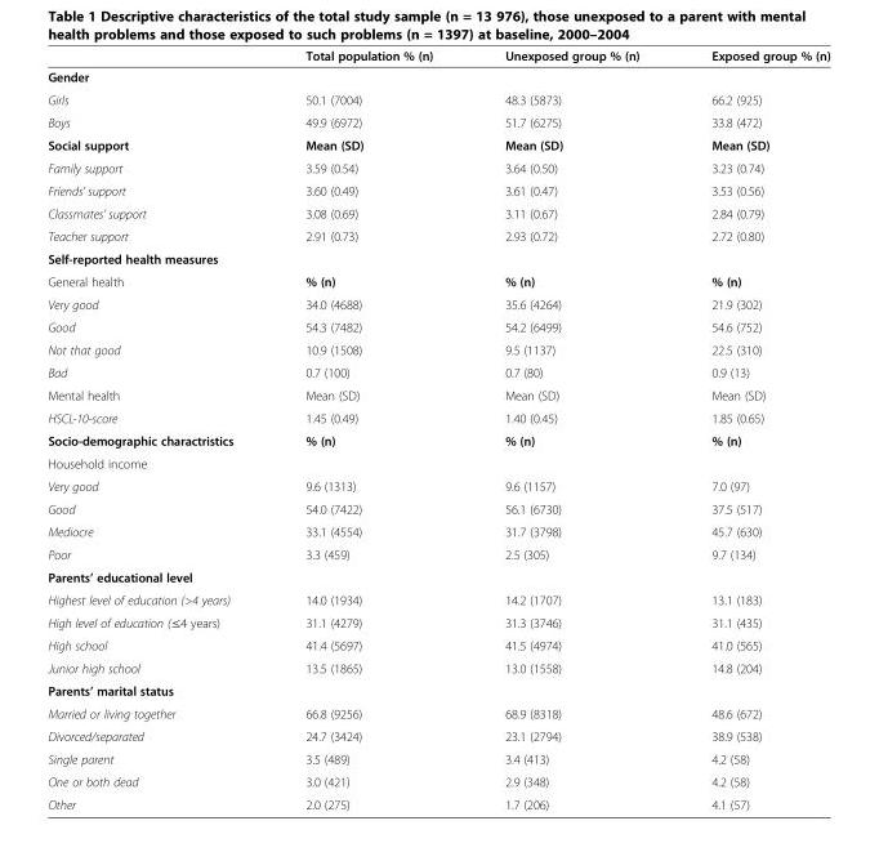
<table><thead><tr><td></td><td>Total population % (n)</td><td>Unexposed group % (n)</td><td>Exposed group % (n)</td></tr></thead><tbody><tr><td colspan="4">Gender</td></tr><tr><td>Girls</td><td>50.1 (7004)</td><td>48.3 (5873)</td><td>66.2 (925)</td></tr><tr><td>Boys</td><td>49.9 (6972)</td><td>51.7 (6275)</td><td>33.8 (472)</td></tr><tr><td>Social support</td><td>Mean (SD)</td><td>Mean (SD)</td><td>Mean (SD)</td></tr><tr><td>Family support</td><td>3.59 (0.54)</td><td>3.64 (0.50)</td><td>3.23 (0.74)</td></tr><tr><td>Friends’ support</td><td>3.60 (0.49)</td><td>3.61 (0.47)</td><td>3.53 (0.56)</td></tr><tr><td>Classmates’ support</td><td>3.08 (0.69)</td><td>3.11 (0.67)</td><td>2.84 (0.79)</td></tr><tr><td>Teacher support</td><td>2.91 (0.73)</td><td>2.93 (0.72)</td><td>2.72 (0.80)</td></tr><tr><td colspan="4">Self-reported health measures</td></tr><tr><td>General health</td><td>% (n)</td><td>% (n)</td><td>% (n)</td></tr><tr><td>Very good</td><td>34.0 (4688)</td><td>35.6 (4264)</td><td>21.9 (302)</td></tr><tr><td>Good</td><td>54.3 (7482)</td><td>54.2 (6499)</td><td>54.6 (752)</td></tr><tr><td>Not that good</td><td>10.9 (1508)</td><td>9.5 (1137)</td><td>22.5 (310)</td></tr><tr><td>Bad</td><td>0.7 (100)</td><td>0.7 (80)</td><td>0.9 (13)</td></tr><tr><td>Mental health</td><td>Mean (SD)</td><td>Mean (SD)</td><td>Mean (SD)</td></tr><tr><td>HSCL-10-score</td><td>1.45 (0.49)</td><td>1.40 (0.45)</td><td>1.85 (0.65)</td></tr><tr><td>Socio-demographic charactristics</td><td>% (n)</td><td>% (n)</td><td>% (n)</td></tr><tr><td colspan="4">Household income</td></tr><tr><td>Very good</td><td>9.6 (1313)</td><td>9.6 (1157)</td><td>7.0 (97)</td></tr><tr><td>Good</td><td>54.0 (7422)</td><td>56.1 (6730)</td><td>37.5 (517)</td></tr><tr><td>Mediocre</td><td>33.1 (4554)</td><td>31.7 (3798)</td><td>45.7 (630)</td></tr><tr><td>Poor</td><td>3.3 (459)</td><td>2.5 (305)</td><td>9.7 (134)</td></tr><tr><td colspan="4">Parents’ educational level</td></tr><tr><td>Highest level of education (&gt;4 years)</td><td>14.0 (1934)</td><td>14.2 (1707)</td><td>13.1 (183)</td></tr><tr><td>High level of education (≤4 years)</td><td>31.1 (4279)</td><td>31.3 (3746)</td><td>31.1 (435)</td></tr><tr><td>High school</td><td>41.4 (5697)</td><td>41.5 (4974)</td><td>41.0 (565)</td></tr><tr><td>Junior high school</td><td>13.5 (1865)</td><td>13.0 (1558)</td><td>14.8 (204)</td></tr><tr><td colspan="4">Parents’ marital status</td></tr><tr><td>Married or living together</td><td>66.8 (9256)</td><td>68.9 (8318)</td><td>48.6 (672)</td></tr><tr><td>Divorced/separated</td><td>24.7 (3424)</td><td>23.1 (2794)</td><td>38.9 (538)</td></tr><tr><td>Single parent</td><td>3.5 (489)</td><td>3.4 (413)</td><td>4.2 (58)</td></tr><tr><td>One or both dead</td><td>3.0 (421)</td><td>2.9 (348)</td><td>4.2 (58)</td></tr><tr><td>Other</td><td>2.0 (275)</td><td>1.7 (206)</td><td>4.1 (57)</td></tr></tbody></table>